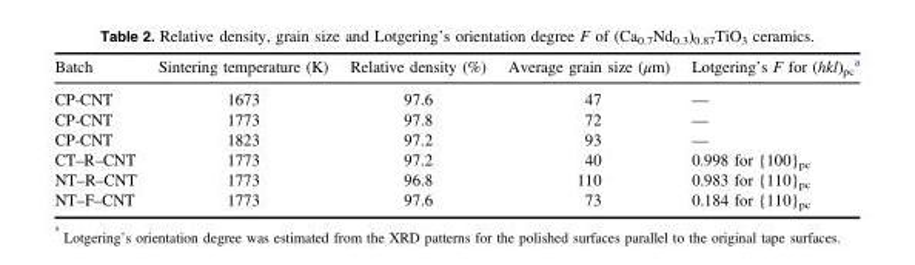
<table><thead><tr><td>Batch</td><td>Sintering temperature (K)</td><td>Relative density (%)</td><td>Average grain size (μm)</td><td>Lotgering’s F for (hkl)<sub>pc</sub> <sup>a</sup></td></tr></thead><tbody><tr><td>CP-CNT</td><td>1673</td><td>97.6</td><td>47</td><td>—</td></tr><tr><td>CP-CNT</td><td>1773</td><td>97.8</td><td>72</td><td>—</td></tr><tr><td>CP-CNT</td><td>1823</td><td>97.2</td><td>93</td><td>—</td></tr><tr><td>CT–R–CNT</td><td>1773</td><td>97.2</td><td>40</td><td>0.998 for {100}<sub>pc</sub></td></tr><tr><td>NT–R–CNT</td><td>1773</td><td>96.8</td><td>110</td><td>0.983 for {110}<sub>pc</sub></td></tr><tr><td>NT–F–CNT</td><td>1773</td><td>97.6</td><td>73</td><td>0.184 for {110}<sub>pc</sub></td></tr></tbody></table>